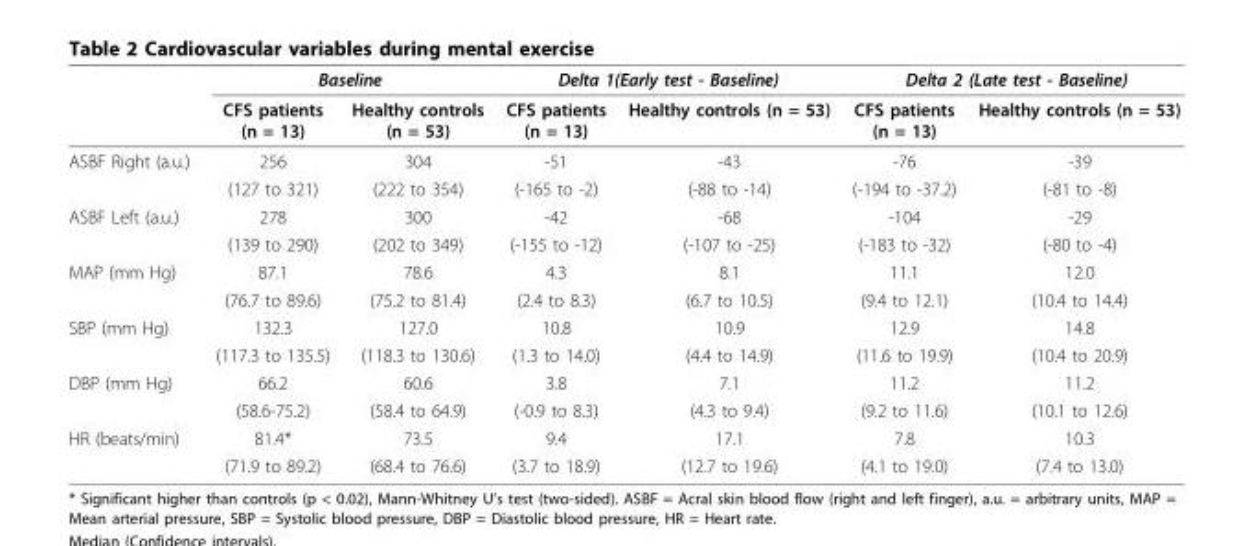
<table><thead><tr><td rowspan="2"></td><td colspan="2">Baseline</td><td colspan="2">Delta 1(Early test - Baseline)</td><td colspan="2">Delta 2 (Late test - Baseline)</td></tr><tr><td>CFS patients (n = 13)</td><td>Healthy controls (n = 53)</td><td>CFS patients (n = 13)</td><td>Healthy controls (n = 53)</td><td>CFS patients (n = 13)</td><td>Healthy controls (n = 53)</td></tr></thead><tbody><tr><td rowspan="2">ASBF Right (a.u.)</td><td>256</td><td>304</td><td>-51</td><td>-43</td><td>-76</td><td>-39</td></tr><tr><td>(127 to 321)</td><td>(222 to 354)</td><td>(-165 to -2)</td><td>(-88 to -14)</td><td>(-194 to -37.2)</td><td>(-81 to -8)</td></tr><tr><td rowspan="2">ASBF Left (a.u.)</td><td>278</td><td>300</td><td>-42</td><td>-68</td><td>-104</td><td>-29</td></tr><tr><td>(139 to 290)</td><td>(202 to 349)</td><td>(-155 to -12)</td><td>(-107 to -25)</td><td>(-183 to -32)</td><td>(-80 to -4)</td></tr><tr><td rowspan="2">MAP (mm Hg)</td><td>87.1</td><td>78.6</td><td>4.3</td><td>8.1</td><td>11.1</td><td>12.0</td></tr><tr><td>(76.7 to 89.6)</td><td>(75.2 to 81.4)</td><td>(2.4 to 8.3)</td><td>(6.7 to 10.5)</td><td>(9.4 to 12.1)</td><td>(10.4 to 14.4)</td></tr><tr><td rowspan="2">SBP (mm Hg)</td><td>132.3</td><td>127.0</td><td>10.8</td><td>10.9</td><td>12.9</td><td>14.8</td></tr><tr><td>(117.3 to 135.5)</td><td>(118.3 to 130.6)</td><td>(1.3 to 14.0)</td><td>(4.4 to 14.9)</td><td>(11.6 to 19.9)</td><td>(10.4 to 20.9)</td></tr><tr><td rowspan="2">DBP (mm Hg)</td><td>66.2</td><td>60.6</td><td>3.8</td><td>7.1</td><td>11.2</td><td>11.2</td></tr><tr><td>(58.6-75.2)</td><td>(58.4 to 64.9)</td><td>(-0.9 to 8.3)</td><td>(4.3 to 9.4)</td><td>(9.2 to 11.6)</td><td>(10.1 to 12.6)</td></tr><tr><td rowspan="2">HR (beats/min)</td><td>81.4*</td><td>73.5</td><td>9.4</td><td>17.1</td><td>7.8</td><td>10.3</td></tr><tr><td>(71.9 to 89.2)</td><td>(68.4 to 76.6)</td><td>(3.7 to 18.9)</td><td>(12.7 to 19.6)</td><td>(4.1 to 19.0)</td><td>(7.4 to 13.0)</td></tr></tbody></table>